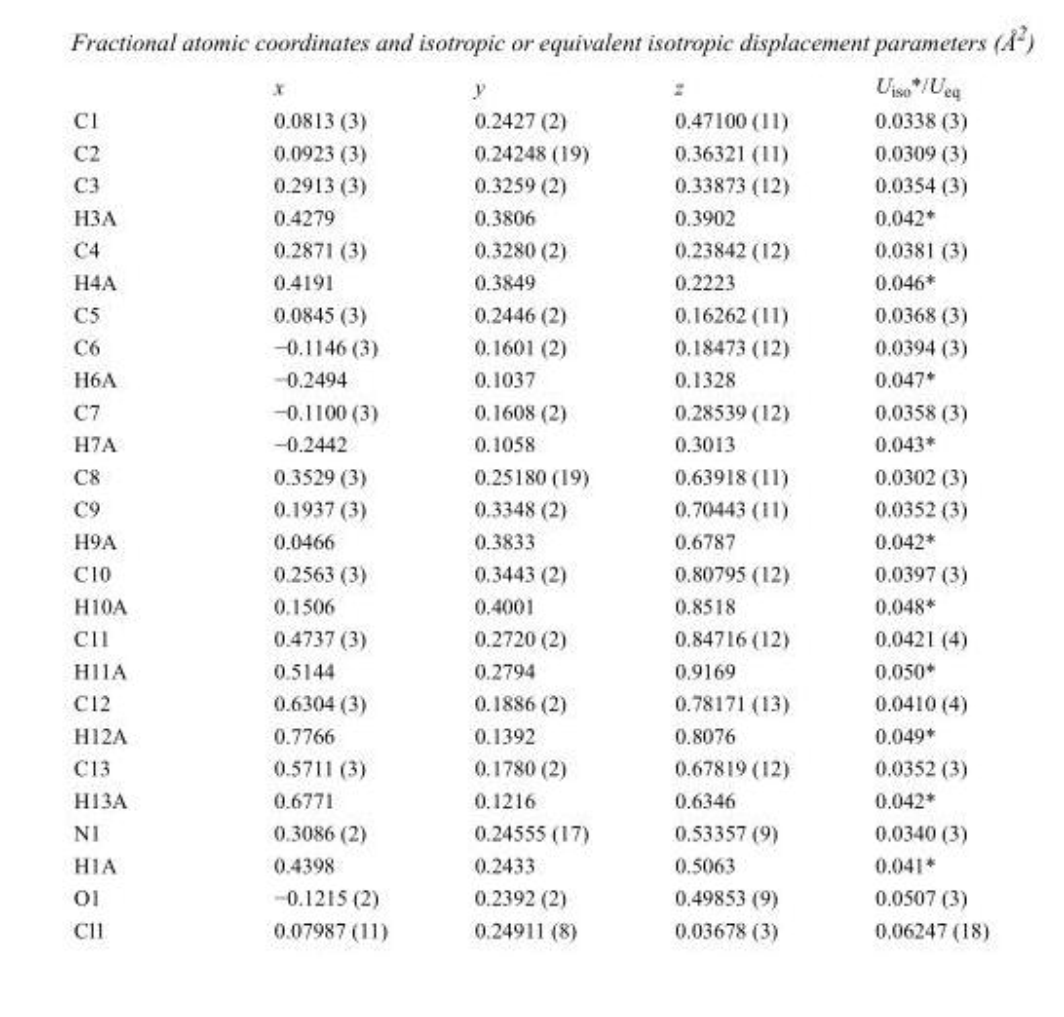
<table><thead><tr><td></td><td>x</td><td>y</td><td>z</td><td>U<sub>iso</sub>*/U<sub>eq</sub></td></tr></thead><tbody><tr><td>C1</td><td>0.0813 (3)</td><td>0.2427 (2)</td><td>0.47100 (11)</td><td>0.0338 (3)</td></tr><tr><td>C2</td><td>0.0923 (3)</td><td>0.24248 (19)</td><td>0.36321 (11)</td><td>0.0309 (3)</td></tr><tr><td>C3</td><td>0.2913 (3)</td><td>0.3259 (2)</td><td>0.33873 (12)</td><td>0.0354 (3)</td></tr><tr><td>H3A</td><td>0.4279</td><td>0.3806</td><td>0.3902</td><td>0.042*</td></tr><tr><td>C4</td><td>0.2871 (3)</td><td>0.3280 (2)</td><td>0.23842 (12)</td><td>0.0381 (3)</td></tr><tr><td>H4A</td><td>0.4191</td><td>0.3849</td><td>0.2223</td><td>0.046*</td></tr><tr><td>C5</td><td>0.0845 (3)</td><td>0.2446 (2)</td><td>0.16262 (11)</td><td>0.0368 (3)</td></tr><tr><td>C6</td><td>−0.1146 (3)</td><td>0.1601 (2)</td><td>0.18473 (12)</td><td>0.0394 (3)</td></tr><tr><td>H6A</td><td>−0.2494</td><td>0.1037</td><td>0.1328</td><td>0.047*</td></tr><tr><td>C7</td><td>−0.1100 (3)</td><td>0.1608 (2)</td><td>0.28539 (12)</td><td>0.0358 (3)</td></tr><tr><td>H7A</td><td>−0.2442</td><td>0.1058</td><td>0.3013</td><td>0.043*</td></tr><tr><td>C8</td><td>0.3529 (3)</td><td>0.25180 (19)</td><td>0.63918 (11)</td><td>0.0302 (3)</td></tr><tr><td>C9</td><td>0.1937 (3)</td><td>0.3348 (2)</td><td>0.70443 (11)</td><td>0.0352 (3)</td></tr><tr><td>H9A</td><td>0.0466</td><td>0.3833</td><td>0.6787</td><td>0.042*</td></tr><tr><td>C10</td><td>0.2563 (3)</td><td>0.3443 (2)</td><td>0.80795 (12)</td><td>0.0397 (3)</td></tr><tr><td>H10A</td><td>0.1506</td><td>0.4001</td><td>0.8518</td><td>0.048*</td></tr><tr><td>C11</td><td>0.4737 (3)</td><td>0.2720 (2)</td><td>0.84716 (12)</td><td>0.0421 (4)</td></tr><tr><td>H11A</td><td>0.5144</td><td>0.2794</td><td>0.9169</td><td>0.050*</td></tr><tr><td>C12</td><td>0.6304 (3)</td><td>0.1886 (2)</td><td>0.78171 (13)</td><td>0.0410 (4)</td></tr><tr><td>H12A</td><td>0.7766</td><td>0.1392</td><td>0.8076</td><td>0.049*</td></tr><tr><td>C13</td><td>0.5711 (3)</td><td>0.1780 (2)</td><td>0.67819 (12)</td><td>0.0352 (3)</td></tr><tr><td>H13A</td><td>0.6771</td><td>0.1216</td><td>0.6346</td><td>0.042*</td></tr><tr><td>N1</td><td>0.3086 (2)</td><td>0.24555 (17)</td><td>0.53357 (9)</td><td>0.0340 (3)</td></tr><tr><td>H1A</td><td>0.4398</td><td>0.2433</td><td>0.5063</td><td>0.041*</td></tr><tr><td>O1</td><td>−0.1215 (2)</td><td>0.2392 (2)</td><td>0.49853 (9)</td><td>0.0507 (3)</td></tr><tr><td>Cl1</td><td>0.07987 (11)</td><td>0.24911 (8)</td><td>0.03678 (3)</td><td>0.06247 (18)</td></tr></tbody></table>